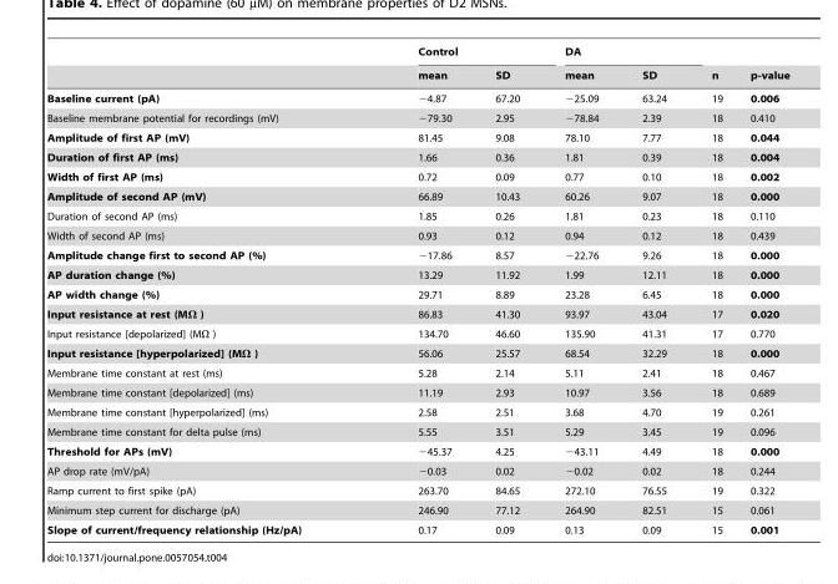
<table><thead><tr><td rowspan="2"></td><td colspan="2">Control</td><td colspan="2">DA</td><td rowspan="2">n</td><td rowspan="2">p-value</td></tr><tr><td>mean</td><td>SD</td><td>mean</td><td>SD</td></tr></thead><tbody><tr><td>Baseline current (pA)</td><td>−4.87</td><td>67.20</td><td>−25.09</td><td>63.24</td><td>19</td><td>0.006</td></tr><tr><td>Baseline membrane potential for recordings (mV)</td><td>−79.30</td><td>2.95</td><td>−78.84</td><td>2.39</td><td>18</td><td>0.410</td></tr><tr><td>Amplitude of first AP (mV)</td><td>81.45</td><td>9.08</td><td>78.10</td><td>7.77</td><td>18</td><td>0.044</td></tr><tr><td>Duration of first AP (ms)</td><td>1.66</td><td>0.36</td><td>1.81</td><td>0.39</td><td>18</td><td>0.004</td></tr><tr><td>Width of first AP (ms)</td><td>0.72</td><td>0.09</td><td>0.77</td><td>0.10</td><td>18</td><td>0.002</td></tr><tr><td>Amplitude of second AP (mV)</td><td>66.89</td><td>10.43</td><td>60.26</td><td>9.07</td><td>18</td><td>0.000</td></tr><tr><td>Duration of second AP (ms)</td><td>1.85</td><td>0.26</td><td>1.81</td><td>0.23</td><td>18</td><td>0.110</td></tr><tr><td>Width of second AP (ms)</td><td>0.93</td><td>0.12</td><td>0.94</td><td>0.12</td><td>18</td><td>0.439</td></tr><tr><td>Amplitude change first to second AP (%)</td><td>−17.86</td><td>8.57</td><td>−22.76</td><td>9.26</td><td>18</td><td>0.000</td></tr><tr><td>AP duration change (%)</td><td>13.29</td><td>11.92</td><td>1.99</td><td>12.11</td><td>18</td><td>0.000</td></tr><tr><td>AP width change (%)</td><td>29.71</td><td>8.89</td><td>23.28</td><td>6.45</td><td>18</td><td>0.000</td></tr><tr><td>Input resistance at rest (MΩ )</td><td>86.83</td><td>41.30</td><td>93.97</td><td>43.04</td><td>17</td><td>0.020</td></tr><tr><td>Input resistance [depolarized] (MΩ )</td><td>134.70</td><td>46.60</td><td>135.90</td><td>41.31</td><td>17</td><td>0.770</td></tr><tr><td>Input resistance [hyperpolarized] (MΩ )</td><td>56.06</td><td>25.57</td><td>68.54</td><td>32.29</td><td>18</td><td>0.000</td></tr><tr><td>Membrane time constant at rest (ms)</td><td>5.28</td><td>2.14</td><td>5.11</td><td>2.41</td><td>18</td><td>0.467</td></tr><tr><td>Membrane time constant [depolarized] (ms)</td><td>11.19</td><td>2.93</td><td>10.97</td><td>3.56</td><td>18</td><td>0.689</td></tr><tr><td>Membrane time constant [hyperpolarized] (ms)</td><td>2.58</td><td>2.51</td><td>3.68</td><td>4.70</td><td>19</td><td>0.261</td></tr><tr><td>Membrane time constant for delta pulse (ms)</td><td>5.55</td><td>3.51</td><td>5.29</td><td>3.45</td><td>19</td><td>0.096</td></tr><tr><td>Threshold for APs (mV)</td><td>−45.37</td><td>4.25</td><td>−43.11</td><td>4.49</td><td>18</td><td>0.000</td></tr><tr><td>AP drop rate (mV/pA)</td><td>−0.03</td><td>0.02</td><td>−0.02</td><td>0.02</td><td>18</td><td>0.244</td></tr><tr><td>Ramp current to first spike (pA)</td><td>263.70</td><td>84.65</td><td>272.10</td><td>76.55</td><td>19</td><td>0.322</td></tr><tr><td>Minimum step current for discharge (pA)</td><td>246.90</td><td>77.12</td><td>264.90</td><td>82.51</td><td>15</td><td>0.061</td></tr><tr><td>Slope of current/frequency relationship (Hz/pA)</td><td>0.17</td><td>0.09</td><td>0.13</td><td>0.09</td><td>15</td><td>0.001</td></tr></tbody></table>